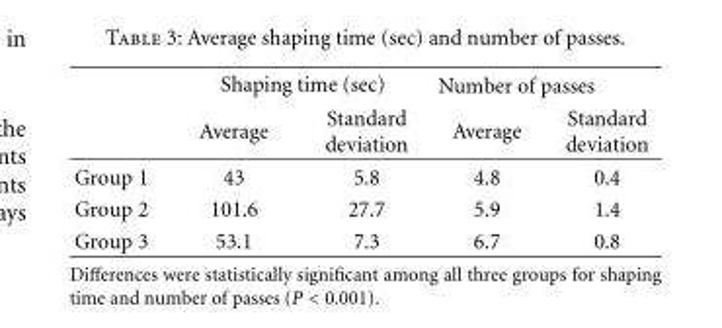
<table><thead><tr><td rowspan="2"></td><td colspan="2">Shaping time (sec)</td><td colspan="2">Number of passes</td></tr><tr><td>Average</td><td>Standard deviation</td><td>Average</td><td>Standard deviation</td></tr></thead><tbody><tr><td>Group 1</td><td>43</td><td>5.8</td><td>4.8</td><td>0.4</td></tr><tr><td>Group 2</td><td>101.6</td><td>27.7</td><td>5.9</td><td>1.4</td></tr><tr><td>Group 3</td><td>53.1</td><td>7.3</td><td>6.7</td><td>0.8</td></tr></tbody></table>